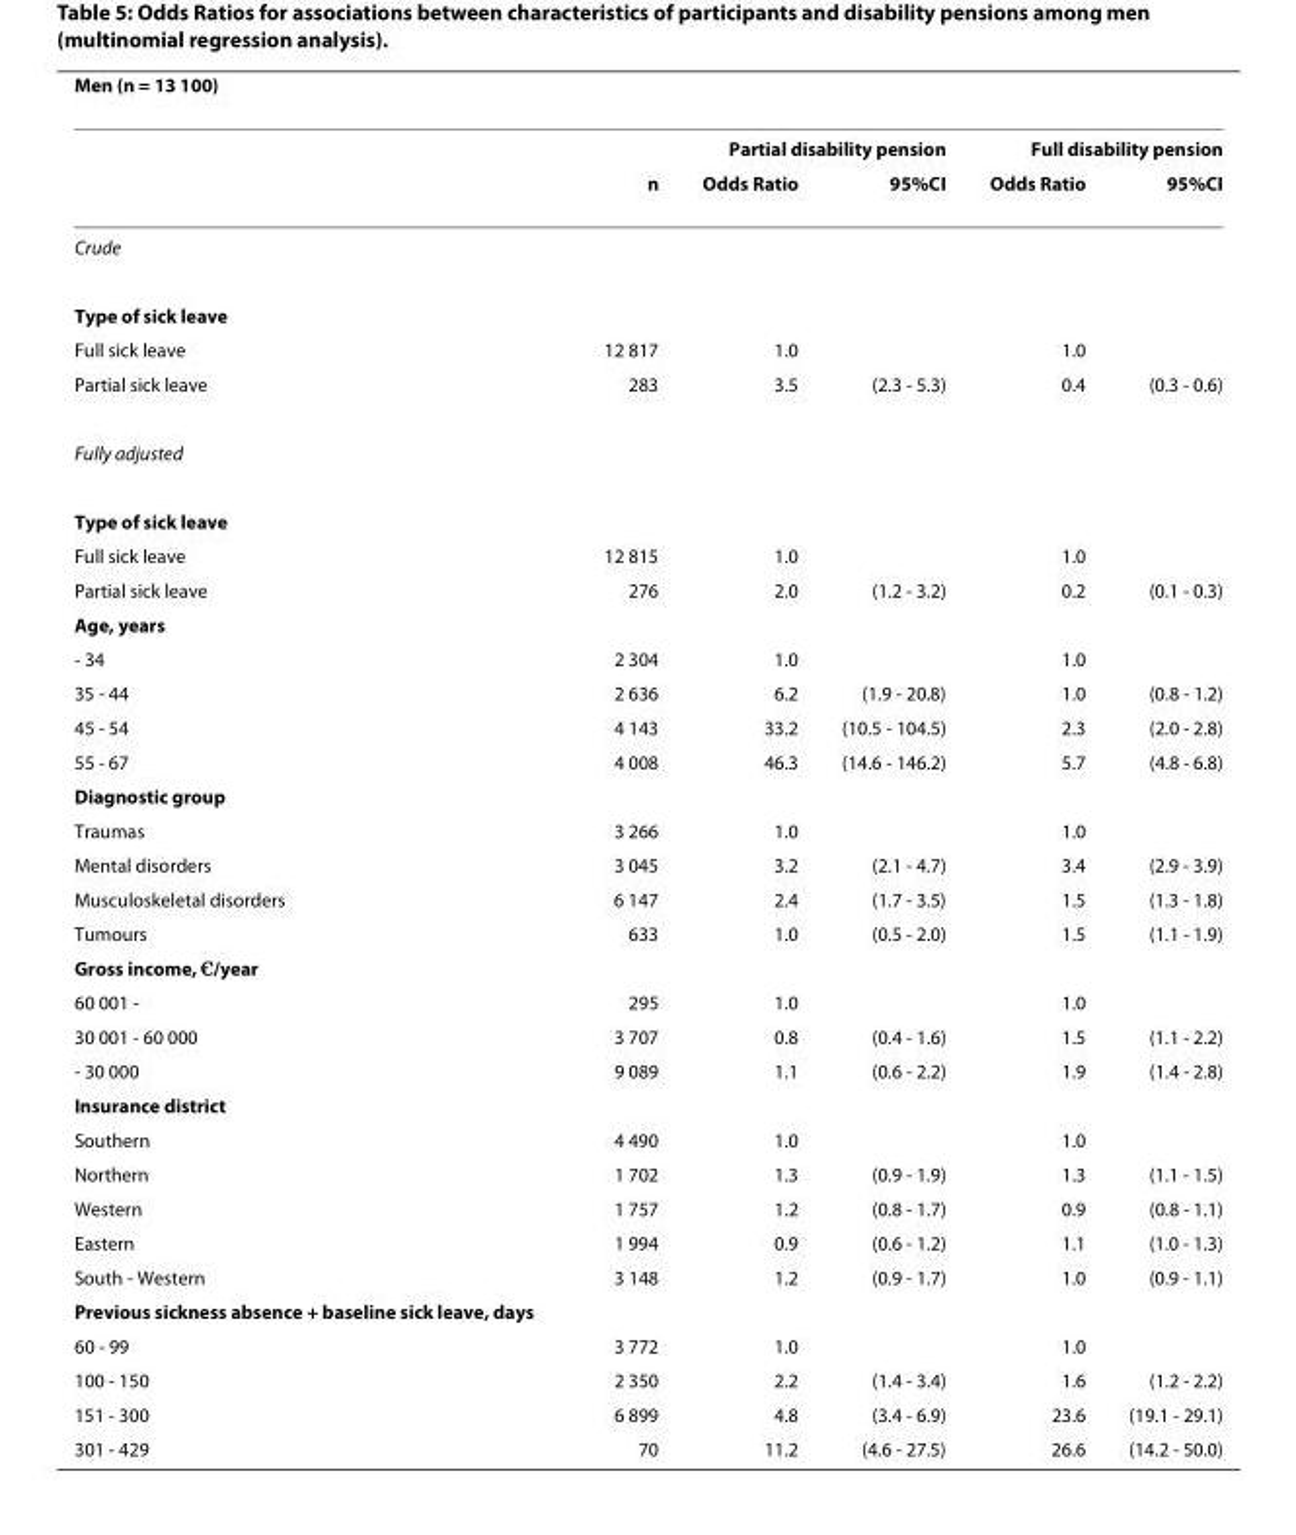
<table><thead><tr><td colspan="6">Men (n = 13 100)</td></tr><tr><td rowspan="2"></td><td rowspan="2">n</td><td colspan="2">Partial disability pension</td><td colspan="2">Full disability pension</td></tr><tr><td>Odds Ratio</td><td>95%CI</td><td>Odds Ratio</td><td>95%CI</td></tr></thead><tbody><tr><td colspan="6">Crude</td></tr><tr><td colspan="6">Type of sick leave</td></tr><tr><td>Full sick leave</td><td>12 817</td><td>1.0</td><td></td><td>1.0</td><td></td></tr><tr><td>Partial sick leave</td><td>283</td><td>3.5</td><td>(2.3 - 5.3)</td><td>0.4</td><td>(0.3 - 0.6)</td></tr><tr><td colspan="6">Fully adjusted</td></tr><tr><td colspan="6">Type of sick leave</td></tr><tr><td>Full sick leave</td><td>12 815</td><td>1.0</td><td></td><td>1.0</td><td></td></tr><tr><td>Partial sick leave</td><td>276</td><td>2.0</td><td>(1.2 - 3.2)</td><td>0.2</td><td>(0.1 - 0.3)</td></tr><tr><td colspan="6">Age, years</td></tr><tr><td>- 34</td><td>2 304</td><td>1.0</td><td></td><td>1.0</td><td></td></tr><tr><td>35 - 44</td><td>2 636</td><td>6.2</td><td>(1.9 - 20.8)</td><td>1.0</td><td>(0.8 - 1.2)</td></tr><tr><td>45 - 54</td><td>4 143</td><td>33.2</td><td>(10.5 - 104.5)</td><td>2.3</td><td>(2.0 - 2.8)</td></tr><tr><td>55 - 67</td><td>4 008</td><td>46.3</td><td>(14.6 - 146.2)</td><td>5.7</td><td>(4.8 - 6.8)</td></tr><tr><td colspan="6">Diagnostic group</td></tr><tr><td>Traumas</td><td>3 266</td><td>1.0</td><td></td><td>1.0</td><td></td></tr><tr><td>Mental disorders</td><td>3 045</td><td>3.2</td><td>(2.1 - 4.7)</td><td>3.4</td><td>(2.9 - 3.9)</td></tr><tr><td>Musculoskeletal disorders</td><td>6 147</td><td>2.4</td><td>(1.7 - 3.5)</td><td>1.5</td><td>(1.3 - 1.8)</td></tr><tr><td>Tumours</td><td>633</td><td>1.0</td><td>(0.5 - 2.0)</td><td>1.5</td><td>(1.1 - 1.9)</td></tr><tr><td colspan="6">Gross income, €/year</td></tr><tr><td>60 001 -</td><td>295</td><td>1.0</td><td></td><td>1.0</td><td></td></tr><tr><td>30 001 - 60 000</td><td>3 707</td><td>0.8</td><td>(0.4 - 1.6)</td><td>1.5</td><td>(1.1 - 2.2)</td></tr><tr><td>- 30 000</td><td>9 089</td><td>1.1</td><td>(0.6 - 2.2)</td><td>1.9</td><td>(1.4 - 2.8)</td></tr><tr><td colspan="6">Insurance district</td></tr><tr><td>Southern</td><td>4 490</td><td>1.0</td><td></td><td>1.0</td><td></td></tr><tr><td>Northern</td><td>1 702</td><td>1.3</td><td>(0.9 - 1.9)</td><td>1.3</td><td>(1.1 - 1.5)</td></tr><tr><td>Western</td><td>1 757</td><td>1.2</td><td>(0.8 - 1.7)</td><td>0.9</td><td>(0.8 - 1.1)</td></tr><tr><td>Eastern</td><td>1 994</td><td>0.9</td><td>(0.6 - 1.2)</td><td>1.1</td><td>(1.0 - 1.3)</td></tr><tr><td>South - Western</td><td>3 148</td><td>1.2</td><td>(0.9 - 1.7)</td><td>1.0</td><td>(0.9 - 1.1)</td></tr><tr><td colspan="6">Previous sickness absence + baseline sick leave, days</td></tr><tr><td>60 - 99</td><td>3 772</td><td>1.0</td><td></td><td>1.0</td><td></td></tr><tr><td>100 - 150</td><td>2 350</td><td>2.2</td><td>(1.4 - 3.4)</td><td>1.6</td><td>(1.2 - 2.2)</td></tr><tr><td>151 - 300</td><td>6 899</td><td>4.8</td><td>(3.4 - 6.9)</td><td>23.6</td><td>(19.1 - 29.1)</td></tr><tr><td>301 - 429</td><td>70</td><td>11.2</td><td>(4.6 - 27.5)</td><td>26.6</td><td>(14.2 - 50.0)</td></tr></tbody></table>